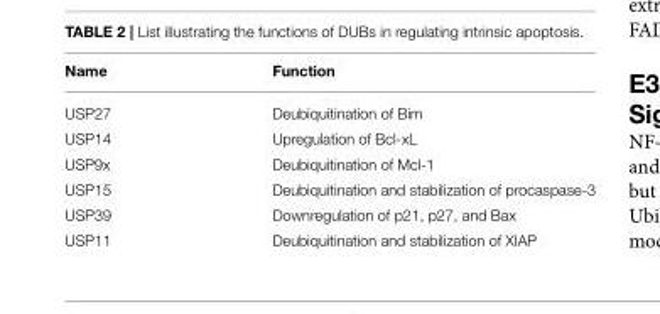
<table><thead><tr><td>Name</td><td>Function</td></tr></thead><tbody><tr><td>USP27</td><td>Deubiquitination of Bim</td></tr><tr><td>USP14</td><td>Upregulation of Bcl-xL</td></tr><tr><td>USP9x</td><td>Deubiquitination of Mcl-1</td></tr><tr><td>USP15</td><td>Deubiquitination and stabilization of procaspase-3</td></tr><tr><td>USP39</td><td>Downregulation of p21, p27, and Bax</td></tr><tr><td>USP11</td><td>Deubiquitination and stabilization of XIAP</td></tr></tbody></table>